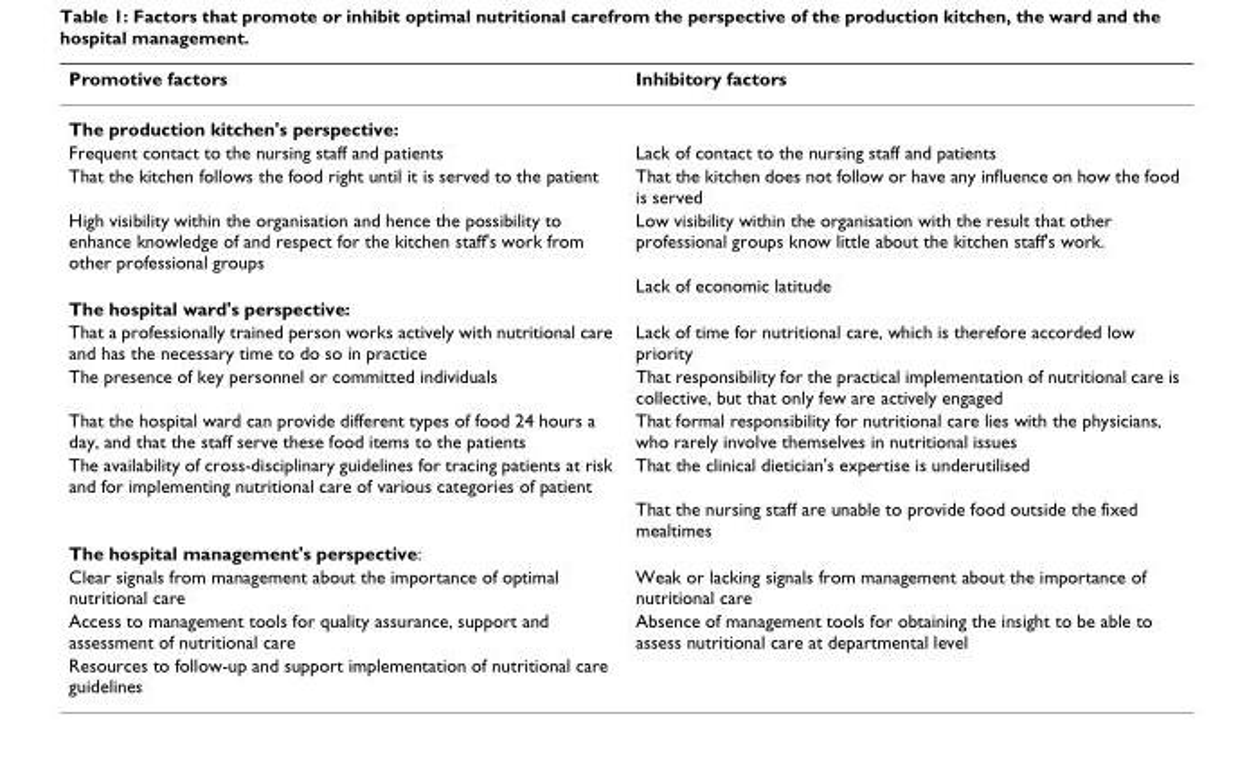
<table><thead><tr><td>Promotive factors</td><td>Inhibitory factors</td></tr></thead><tbody><tr><td colspan="2">The production kitchen&#x27;s perspective:</td></tr><tr><td>Frequent contact to the nursing staff and patients</td><td>Lack of contact to the nursing staff and patients</td></tr><tr><td>That the kitchen follows the food right until it is served to the patient</td><td>That the kitchen does not follow or have any influence on how the food is served</td></tr><tr><td rowspan="2">High visibility within the organisation and hence the possibility to enhance knowledge of and respect for the kitchen staff&#x27;s work from other professional groups</td><td>Low visibility within the organisation with the result that other professional groups know little about the kitchen staff&#x27;s work.</td></tr><tr><td>Lack of economic latitude</td></tr><tr><td colspan="2">The hospital ward&#x27;s perspective:</td></tr><tr><td>That a professionally trained person works actively with nutritional care and has the necessary time to do so in practice</td><td>Lack of time for nutritional care, which is therefore accorded low priority</td></tr><tr><td>The presence of key personnel or committed individuals</td><td>That responsibility for the practical implementation of nutritional care is collective, but that only few are actively engaged</td></tr><tr><td>That the hospital ward can provide different types of food 24 hours a day, and that the staff serve these food items to the patients</td><td>That formal responsibility for nutritional care lies with the physicians, who rarely involve themselves in nutritional issues</td></tr><tr><td rowspan="2">The availability of cross-disciplinary guidelines for tracing patients at risk and for implementing nutritional care of various categories of patient</td><td>That the clinical dietician&#x27;s expertise is underutilised</td></tr><tr><td>That the nursing staff are unable to provide food outside the fixed mealtimes</td></tr><tr><td colspan="2">The hospital management&#x27;s perspective:</td></tr><tr><td>Clear signals from management about the importance of optimal nutritional care</td><td>Weak or lacking signals from management about the importance of nutritional care</td></tr><tr><td>Access to management tools for quality assurance, support and assessment of nutritional care</td><td>Absence of management tools for obtaining the insight to be able to assess nutritional care at departmental level</td></tr><tr><td>Resources to follow-up and support implementation of nutritional care guidelines</td><td></td></tr></tbody></table>